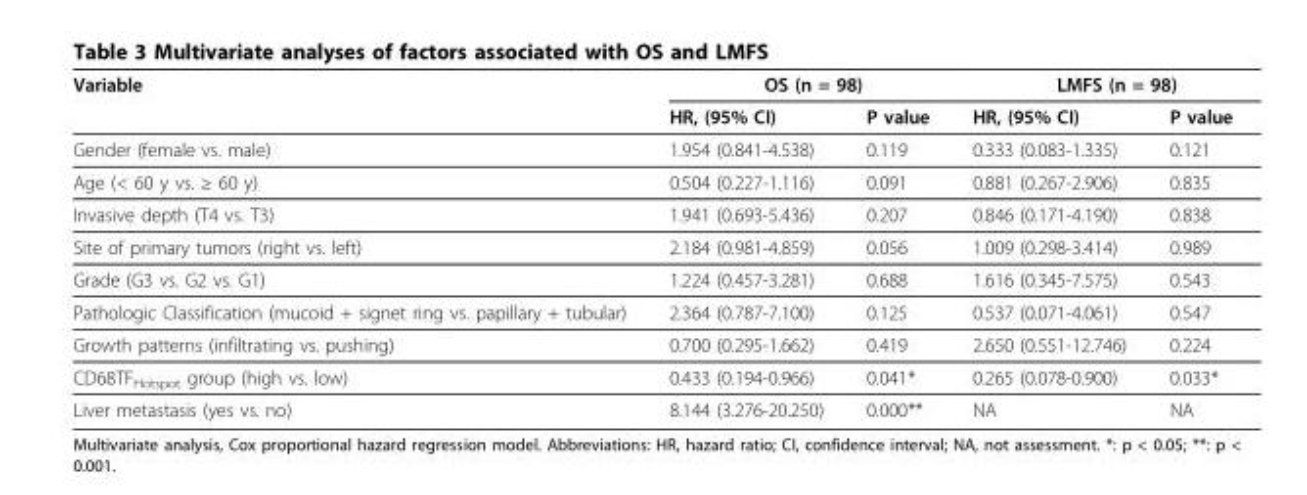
<table><thead><tr><td rowspan="2">Variable</td><td colspan="2">OS (n = 98)</td><td colspan="2">LMFS (n = 98)</td></tr><tr><td>HR, (95% CI)</td><td>P value</td><td>HR, (95% CI)</td><td>P value</td></tr></thead><tbody><tr><td>Gender (female vs. male)</td><td>1.954 (0.841-4.538)</td><td>0.119</td><td>0.333 (0.083-1.335)</td><td>0.121</td></tr><tr><td>Age (&lt; 60 y vs. ≥ 60 y)</td><td>0.504 (0.227-1.116)</td><td>0.091</td><td>0.881 (0.267-2.906)</td><td>0.835</td></tr><tr><td>Invasive depth (T4 vs. T3)</td><td>1.941 (0.693-5.436)</td><td>0.207</td><td>0.846 (0.171-4.190)</td><td>0.838</td></tr><tr><td>Site of primary tumors (right vs. left)</td><td>2.184 (0.981-4.859)</td><td>0.056</td><td>1.009 (0.298-3.414)</td><td>0.989</td></tr><tr><td>Grade (G3 vs. G2 vs. G1)</td><td>1.224 (0.457-3.281)</td><td>0.688</td><td>1.616 (0.345-7.575)</td><td>0.543</td></tr><tr><td>Pathologic Classification (mucoid + signet ring vs. papillary + tubular)</td><td>2.364 (0.787-7.100)</td><td>0.125</td><td>0.537 (0.071-4.061)</td><td>0.547</td></tr><tr><td>Growth patterns (infiltrating vs. pushing)</td><td>0.700 (0.295-1.662)</td><td>0.419</td><td>2.650 (0.551-12.746)</td><td>0.224</td></tr><tr><td>CD68TF<sub>Hotspot</sub> group (high vs. low)</td><td>0.433 (0.194-0.966)</td><td>0.041*</td><td>0.265 (0.078-0.900)</td><td>0.033*</td></tr><tr><td>Liver metastasis (yes vs. no)</td><td>8.144 (3.276-20.250)</td><td>0.000**</td><td>NA</td><td>NA</td></tr></tbody></table>